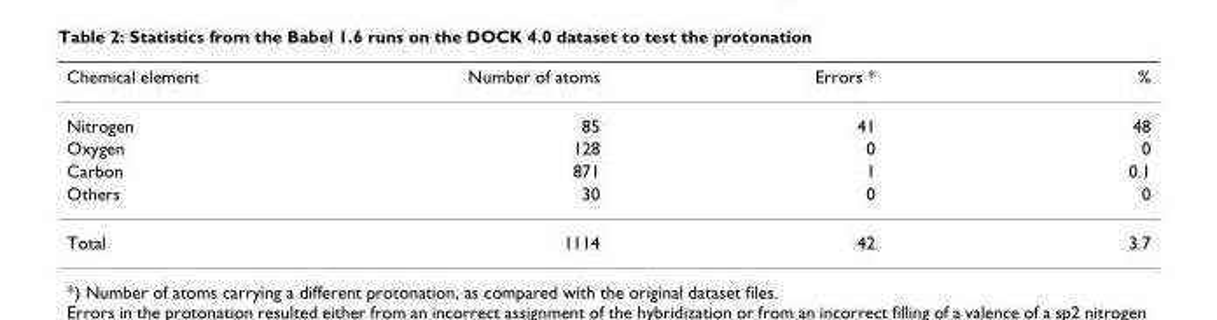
<table><thead><tr><td>Chemical element</td><td>Number of atoms</td><td>Errors *</td><td>%</td></tr></thead><tbody><tr><td>Nitrogen</td><td>85</td><td>41</td><td>48</td></tr><tr><td>Oxygen</td><td>128</td><td>0</td><td>0</td></tr><tr><td>Carbon</td><td>871</td><td>1</td><td>0.1</td></tr><tr><td>Others</td><td>30</td><td>0</td><td>0</td></tr><tr><td>Total</td><td>1114</td><td>42</td><td>3.7</td></tr></tbody></table>